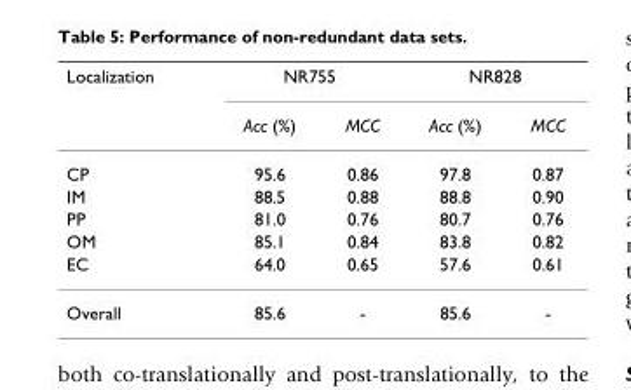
<table><thead><tr><td rowspan="2">Localization</td><td colspan="2">NR755</td><td colspan="2">NR828</td></tr><tr><td>Acc (%)</td><td>MCC</td><td>Acc (%)</td><td>MCC</td></tr></thead><tbody><tr><td>CP</td><td>95.6</td><td>0.86</td><td>97.8</td><td>0.87</td></tr><tr><td>IM</td><td>88.5</td><td>0.88</td><td>88.8</td><td>0.90</td></tr><tr><td>PP</td><td>81.0</td><td>0.76</td><td>80.7</td><td>0.76</td></tr><tr><td>OM</td><td>85.1</td><td>0.84</td><td>83.8</td><td>0.82</td></tr><tr><td>EC</td><td>64.0</td><td>0.65</td><td>57.6</td><td>0.61</td></tr><tr><td>Overall</td><td>85.6</td><td>-</td><td>85.6</td><td>-</td></tr></tbody></table>